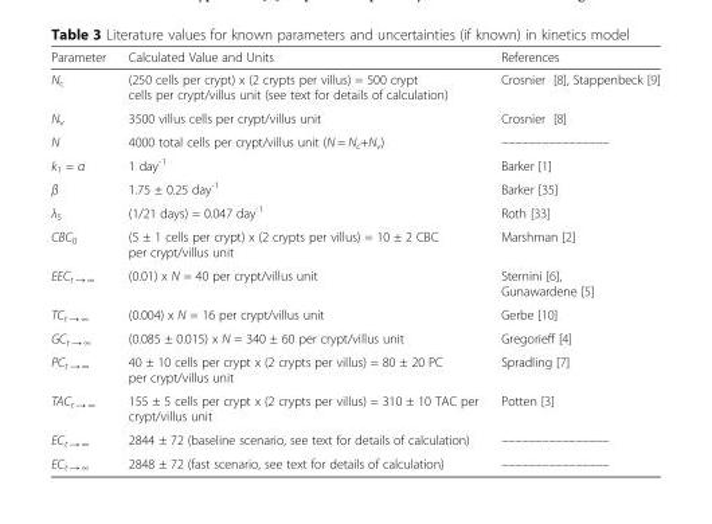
<table><thead><tr><td>Parameter</td><td>Calculated Value and Units</td><td>References</td></tr></thead><tbody><tr><td>N<sub>c</sub></td><td>(250 cells per crypt) x (2 crypts per villus) = 500 crypt cells per crypt/villus unit (see text for details of calculation)</td><td>Crosnier [8], Stappenbeck [9]</td></tr><tr><td>N<sub>v</sub></td><td>3500 villus cells per crypt/villus unit</td><td>Crosnier [8]</td></tr><tr><td>N</td><td>4000 total cells per crypt/villus unit (N = N<sub>c</sub>+N<sub>v</sub>)</td><td>––––––––––––––––</td></tr><tr><td>k<sub>1</sub> = α</td><td>1 day<sup>-1</sup></td><td>Barker [1]</td></tr><tr><td>β</td><td>1.75 ± 0.25 day<sup>-1</sup></td><td>Barker [35]</td></tr><tr><td>λ<sub>5</sub></td><td>(1/21 days) = 0.047 day<sup>-1</sup></td><td>Roth [33]</td></tr><tr><td>CBC<sub>0</sub></td><td>(5 ± 1 cells per crypt) x (2 crypts per villus) = 10 ± 2 CBC per crypt/villus unit</td><td>Marshman [2]</td></tr><tr><td>EEC<sub>t → ∞</sub></td><td>(0.01) x N = 40 per crypt/villus unit</td><td>Sternini [6], Gunawardene [5]</td></tr><tr><td>TC<sub>t → ∞</sub></td><td>(0.004) x N = 16 per crypt/villus unit</td><td>Gerbe [10]</td></tr><tr><td>GC<sub>t → ∞</sub></td><td>(0.085 ± 0.015) x N = 340 ± 60 per crypt/villus unit</td><td>Gregorieff [4]</td></tr><tr><td>PC<sub>t → ∞</sub></td><td>40 ± 10 cells per crypt x (2 crypts per villus) = 80 ± 20 PC per crypt/villus unit</td><td>Spradling [7]</td></tr><tr><td>TAC<sub>t → ∞</sub></td><td>155 ± 5 cells per crypt x (2 crypts per villus) = 310 ± 10 TAC per crypt/villus unit</td><td>Potten [3]</td></tr><tr><td>EC<sub>t → ∞</sub></td><td>2844 ± 72 (baseline scenario, see text for details of calculation)</td><td>––––––––––––––––</td></tr><tr><td>EC<sub>t → ∞</sub></td><td>2848 ± 72 (fast scenario, see text for details of calculation)</td><td>––––––––––––––––</td></tr></tbody></table>